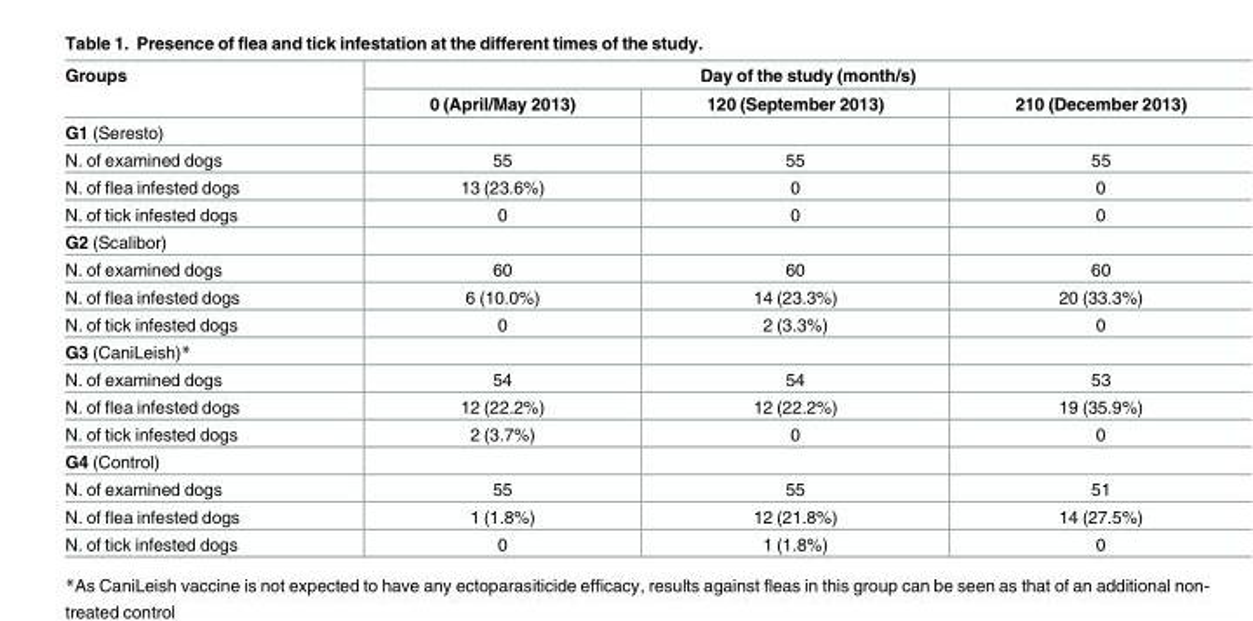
<table><thead><tr><td rowspan="2">Groups</td><td colspan="3">Day of the study (month/s)</td></tr><tr><td>0 (April/May 2013)</td><td>120 (September 2013)</td><td>210 (December 2013)</td></tr></thead><tbody><tr><td colspan="4">G1 (Seresto)</td></tr><tr><td>N. of examined dogs</td><td>55</td><td>55</td><td>55</td></tr><tr><td>N. of flea infested dogs</td><td>13 (23.6%)</td><td>0</td><td>0</td></tr><tr><td>N. of tick infested dogs</td><td>0</td><td>0</td><td>0</td></tr><tr><td colspan="4">G2 (Scalibor)</td></tr><tr><td>N. of examined dogs</td><td>60</td><td>60</td><td>60</td></tr><tr><td>N. of flea infested dogs</td><td>6 (10.0%)</td><td>14 (23.3%)</td><td>20 (33.3%)</td></tr><tr><td>N. of tick infested dogs</td><td>0</td><td>2 (3.3%)</td><td>0</td></tr><tr><td colspan="4">G3 (CaniLeish)*</td></tr><tr><td>N. of examined dogs</td><td>54</td><td>54</td><td>53</td></tr><tr><td>N. of flea infested dogs</td><td>12 (22.2%)</td><td>12 (22.2%)</td><td>19 (35.9%)</td></tr><tr><td>N. of tick infested dogs</td><td>2 (3.7%)</td><td>0</td><td>0</td></tr><tr><td colspan="4">G4 (Control)</td></tr><tr><td>N. of examined dogs</td><td>55</td><td>55</td><td>51</td></tr><tr><td>N. of flea infested dogs</td><td>1 (1.8%)</td><td>12 (21.8%)</td><td>14 (27.5%)</td></tr><tr><td>N. of tick infested dogs</td><td>0</td><td>1 (1.8%)</td><td>0</td></tr></tbody></table>